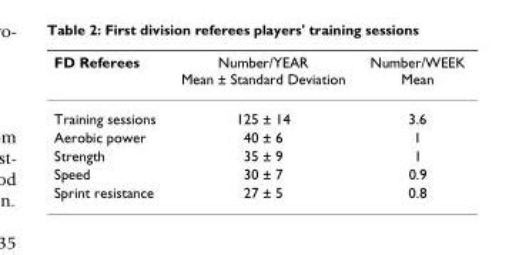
<table><thead><tr><td>FD Referees</td><td>Number/YEAR Mean ± Standard Deviation</td><td>Number/WEEK Mean</td></tr></thead><tbody><tr><td>Training sessions</td><td>125 ± 14</td><td>3.6</td></tr><tr><td>Aerobic power</td><td>40 ± 6</td><td>1</td></tr><tr><td>Strength</td><td>35 ± 9</td><td>1</td></tr><tr><td>Speed</td><td>30 ± 7</td><td>0.9</td></tr><tr><td>Sprint resistance</td><td>27 ± 5</td><td>0.8</td></tr></tbody></table>